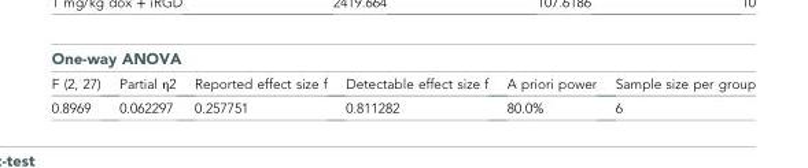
<table><thead><tr><td colspan="6">One-way ANOVA</td></tr><tr><td>F (2, 27)</td><td>Partial η2</td><td>Reported effect size f</td><td>Detectable effect size f</td><td>A priori power</td><td>Sample size per group</td></tr></thead><tbody><tr><td>0.8969</td><td>0.062297</td><td>0.257751</td><td>0.811282</td><td>80.0%</td><td>6</td></tr></tbody></table>